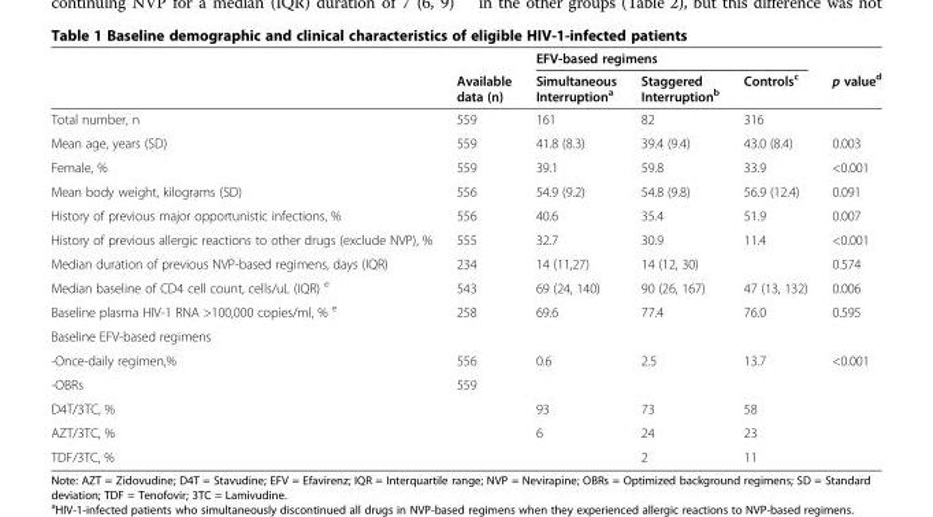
<table><thead><tr><td rowspan="2"></td><td rowspan="2">Available data (n)</td><td colspan="3">EFV-based regimens</td><td rowspan="2">p value<sup>d</sup></td></tr><tr><td>Simultaneous Interruption<sup>a</sup></td><td>Staggered Interruption<sup>b</sup></td><td>Controls<sup>c</sup></td></tr></thead><tbody><tr><td>Total number, n</td><td>559</td><td>161</td><td>82</td><td>316</td><td></td></tr><tr><td>Mean age, years (SD)</td><td>559</td><td>41.8 (8.3)</td><td>39.4 (9.4)</td><td>43.0 (8.4)</td><td>0.003</td></tr><tr><td>Female, %</td><td>559</td><td>39.1</td><td>59.8</td><td>33.9</td><td>&lt;0.001</td></tr><tr><td>Mean body weight, kilograms (SD)</td><td>556</td><td>54.9 (9.2)</td><td>54.8 (9.8)</td><td>56.9 (12.4)</td><td>0.091</td></tr><tr><td>History of previous major opportunistic infections, %</td><td>556</td><td>40.6</td><td>35.4</td><td>51.9</td><td>0.007</td></tr><tr><td>History of previous allergic reactions to other drugs (exclude NVP), %</td><td>555</td><td>32.7</td><td>30.9</td><td>11.4</td><td>&lt;0.001</td></tr><tr><td>Median duration of previous NVP-based regimens, days (IQR)</td><td>234</td><td>14 (11,27)</td><td>14 (12, 30)</td><td></td><td>0.574</td></tr><tr><td>Median baseline of CD4 cell count, cells/uL (IQR) <sup>e</sup></td><td>543</td><td>69 (24, 140)</td><td>90 (26, 167)</td><td>47 (13, 132)</td><td>0.006</td></tr><tr><td>Baseline plasma HIV-1 RNA &gt;100,000 copies/ml, % <sup>e</sup></td><td>258</td><td>69.6</td><td>77.4</td><td>76.0</td><td>0.595</td></tr><tr><td colspan="6">Baseline EFV-based regimens</td></tr><tr><td>-Once-daily regimen,%</td><td>556</td><td>0.6</td><td>2.5</td><td>13.7</td><td>&lt;0.001</td></tr><tr><td>-OBRs</td><td>559</td><td></td><td></td><td></td><td></td></tr><tr><td>D4T/3TC, %</td><td></td><td>93</td><td>73</td><td>58</td><td></td></tr><tr><td>AZT/3TC, %</td><td></td><td>6</td><td>24</td><td>23</td><td></td></tr><tr><td>TDF/3TC, %</td><td></td><td></td><td>2</td><td>11</td><td></td></tr></tbody></table>